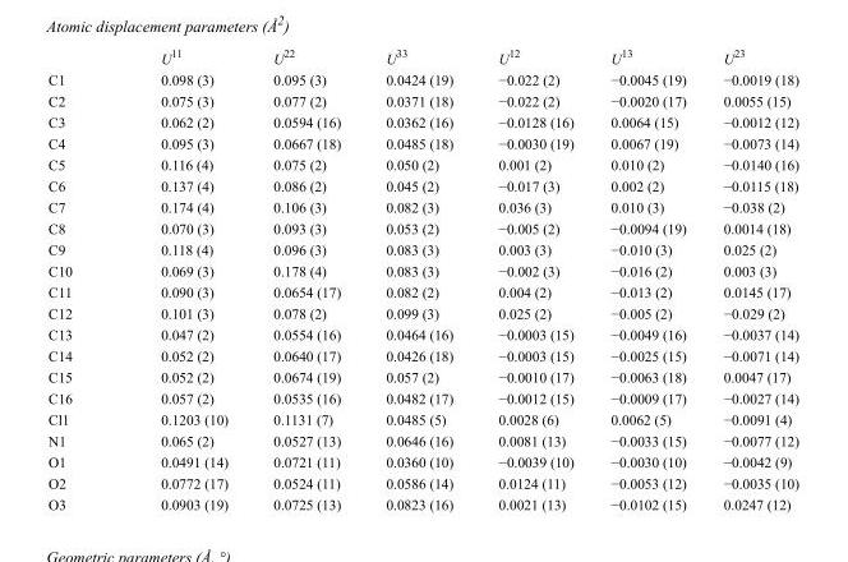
<table><thead><tr><td></td><td>U<sup>11</sup></td><td>U<sup>22</sup></td><td>U<sup>33</sup></td><td>U<sup>12</sup></td><td>U<sup>13</sup></td><td>U<sup>23</sup></td></tr></thead><tbody><tr><td>C1</td><td>0.098 (3)</td><td>0.095 (3)</td><td>0.0424 (19)</td><td>−0.022 (2)</td><td>−0.0045 (19)</td><td>−0.0019 (18)</td></tr><tr><td>C2</td><td>0.075 (3)</td><td>0.077 (2)</td><td>0.0371 (18)</td><td>−0.022 (2)</td><td>−0.0020 (17)</td><td>0.0055 (15)</td></tr><tr><td>C3</td><td>0.062 (2)</td><td>0.0594 (16)</td><td>0.0362 (16)</td><td>−0.0128 (16)</td><td>0.0064 (15)</td><td>−0.0012 (12)</td></tr><tr><td>C4</td><td>0.095 (3)</td><td>0.0667 (18)</td><td>0.0485 (18)</td><td>−0.0030 (19)</td><td>0.0067 (19)</td><td>−0.0073 (14)</td></tr><tr><td>C5</td><td>0.116 (4)</td><td>0.075 (2)</td><td>0.050 (2)</td><td>0.001 (2)</td><td>0.010 (2)</td><td>−0.0140 (16)</td></tr><tr><td>C6</td><td>0.137 (4)</td><td>0.086 (2)</td><td>0.045 (2)</td><td>−0.017 (3)</td><td>0.002 (2)</td><td>−0.0115 (18)</td></tr><tr><td>C7</td><td>0.174 (4)</td><td>0.106 (3)</td><td>0.082 (3)</td><td>0.036 (3)</td><td>0.010 (3)</td><td>−0.038 (2)</td></tr><tr><td>C8</td><td>0.070 (3)</td><td>0.093 (3)</td><td>0.053 (2)</td><td>−0.005 (2)</td><td>−0.0094 (19)</td><td>0.0014 (18)</td></tr><tr><td>C9</td><td>0.118 (4)</td><td>0.096 (3)</td><td>0.083 (3)</td><td>0.003 (3)</td><td>−0.010 (3)</td><td>0.025 (2)</td></tr><tr><td>C10</td><td>0.069 (3)</td><td>0.178 (4)</td><td>0.083 (3)</td><td>−0.002 (3)</td><td>−0.016 (2)</td><td>0.003 (3)</td></tr><tr><td>C11</td><td>0.090 (3)</td><td>0.0654 (17)</td><td>0.082 (2)</td><td>0.004 (2)</td><td>−0.013 (2)</td><td>0.0145 (17)</td></tr><tr><td>C12</td><td>0.101 (3)</td><td>0.078 (2)</td><td>0.099 (3)</td><td>0.025 (2)</td><td>−0.005 (2)</td><td>−0.029 (2)</td></tr><tr><td>C13</td><td>0.047 (2)</td><td>0.0554 (16)</td><td>0.0464 (16)</td><td>−0.0003 (15)</td><td>−0.0049 (16)</td><td>−0.0037 (14)</td></tr><tr><td>C14</td><td>0.052 (2)</td><td>0.0640 (17)</td><td>0.0426 (18)</td><td>−0.0003 (15)</td><td>−0.0025 (15)</td><td>−0.0071 (14)</td></tr><tr><td>C15</td><td>0.052 (2)</td><td>0.0674 (19)</td><td>0.057 (2)</td><td>−0.0010 (17)</td><td>−0.0063 (18)</td><td>0.0047 (17)</td></tr><tr><td>C16</td><td>0.057 (2)</td><td>0.0535 (16)</td><td>0.0482 (17)</td><td>−0.0012 (15)</td><td>−0.0009 (17)</td><td>−0.0027 (14)</td></tr><tr><td>Cl1</td><td>0.1203 (10)</td><td>0.1131 (7)</td><td>0.0485 (5)</td><td>0.0028 (6)</td><td>0.0062 (5)</td><td>−0.0091 (4)</td></tr><tr><td>N1</td><td>0.065 (2)</td><td>0.0527 (13)</td><td>0.0646 (16)</td><td>0.0081 (13)</td><td>−0.0033 (15)</td><td>−0.0077 (12)</td></tr><tr><td>O1</td><td>0.0491 (14)</td><td>0.0721 (11)</td><td>0.0360 (10)</td><td>−0.0039 (10)</td><td>−0.0030 (10)</td><td>−0.0042 (9)</td></tr><tr><td>O2</td><td>0.0772 (17)</td><td>0.0524 (11)</td><td>0.0586 (14)</td><td>0.0124 (11)</td><td>−0.0053 (12)</td><td>−0.0035 (10)</td></tr><tr><td>O3</td><td>0.0903 (19)</td><td>0.0725 (13)</td><td>0.0823 (16)</td><td>0.0021 (13)</td><td>−0.0102 (15)</td><td>0.0247 (12)</td></tr></tbody></table>